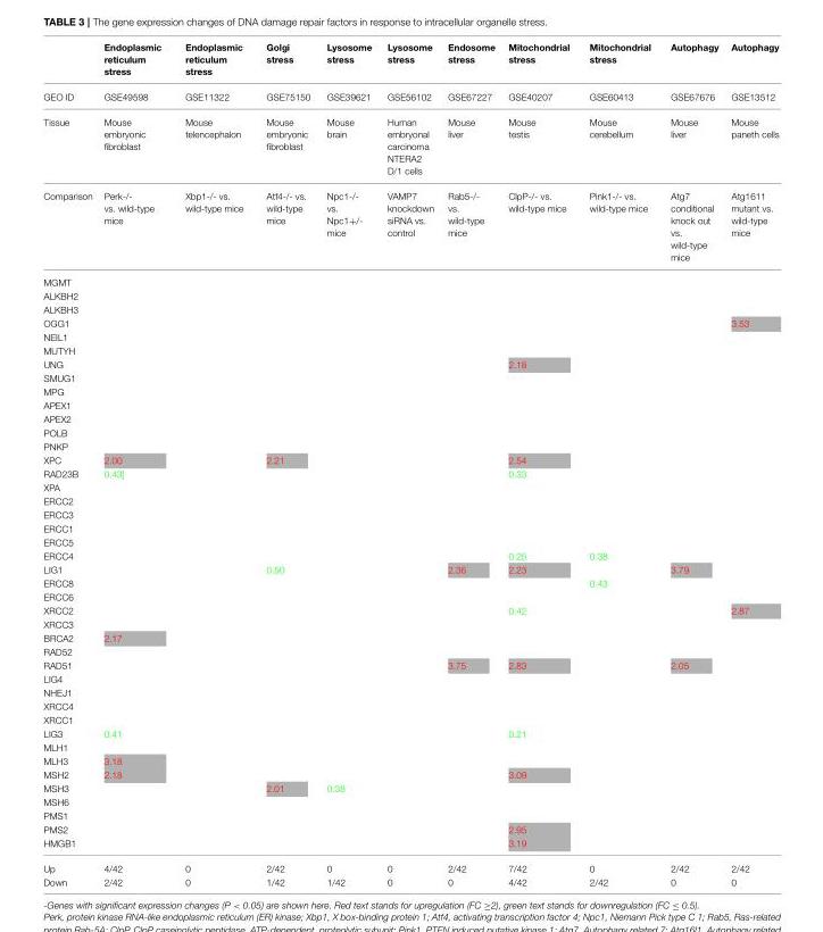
<table><thead><tr><td></td><td>Endoplasmic reticulum stress</td><td>Endoplasmic reticulum stress</td><td>Golgi stress</td><td>Lysosome stress</td><td>Lysosome stress</td><td>Endosome stress</td><td>Mitochondrial stress</td><td>Mitochondrial stress</td><td>Autophagy</td><td>Autophagy</td></tr></thead><tbody><tr><td>GEO ID</td><td>GSE49598</td><td>GSE11322</td><td>GSE75150</td><td>GSE39621</td><td>GSE56102</td><td>GSE67227</td><td>GSE40207</td><td>GSE60413</td><td>GSE67676</td><td>GSE13512</td></tr><tr><td>Tissue</td><td>Mouse embryonic fibroblast</td><td>Mouse telencephalon</td><td>Mouse embryonic fibroblast</td><td>Mouse brain</td><td>Human embryonal carcinoma NTERA2 D/1 cells</td><td>Mouse liver</td><td>Mouse testis</td><td>Mouse cerebellum</td><td>Mouse liver</td><td>Mouse paneth cells</td></tr><tr><td>Comparison</td><td>Perk-/- vs. wild-type mice</td><td>Xbp1-/- vs. wild-type mice</td><td>Atf4-/- vs. wild-type mice</td><td>Npc1-/- vs. Npc1+/- mice</td><td>VAMP7 knockdown siRNA vs. control</td><td>Rab5-/- vs. wild-type mice</td><td>ClpP-/- vs. wild-type mice</td><td>Pink1-/- vs. wild-type mice</td><td>Atg7 conditional knock out vs. wild-type mice</td><td>Atg1611 mutant vs. wild-type mice</td></tr><tr><td colspan="11">MGMT</td></tr><tr><td colspan="11">ALKBH2</td></tr><tr><td colspan="11">ALKBH3</td></tr><tr><td>OGG1</td><td></td><td></td><td></td><td></td><td></td><td></td><td></td><td></td><td></td><td>3.53</td></tr><tr><td colspan="11">NEIL1</td></tr><tr><td colspan="11">MUTYH</td></tr><tr><td>UNG</td><td></td><td></td><td></td><td></td><td></td><td></td><td>2.18</td><td></td><td></td><td></td></tr><tr><td colspan="11">SMUG1</td></tr><tr><td colspan="11">MPG</td></tr><tr><td colspan="11">APEX1</td></tr><tr><td colspan="11">APEX2</td></tr><tr><td colspan="11">POLB</td></tr><tr><td colspan="11">PNKP</td></tr><tr><td>XPC</td><td>2.00</td><td></td><td>2.21</td><td></td><td></td><td></td><td>2.54</td><td></td><td></td><td></td></tr><tr><td>RAD23B</td><td>0.43]</td><td></td><td></td><td></td><td></td><td></td><td>0.33</td><td></td><td></td><td></td></tr><tr><td colspan="11">XPA</td></tr><tr><td colspan="11">ERCC2</td></tr><tr><td colspan="11">ERCC3</td></tr><tr><td colspan="11">ERCC1</td></tr><tr><td colspan="11">ERCC5</td></tr><tr><td>ERCC4</td><td></td><td></td><td></td><td></td><td></td><td></td><td>0.25</td><td>0.38</td><td></td><td></td></tr><tr><td>LIG1</td><td></td><td></td><td>0.50</td><td></td><td></td><td>2.36</td><td>2.23</td><td></td><td>3.79</td><td></td></tr><tr><td>ERCC8</td><td></td><td></td><td></td><td></td><td></td><td></td><td></td><td>0.43</td><td></td><td></td></tr><tr><td colspan="11">ERCC6</td></tr><tr><td>XRCC2</td><td></td><td></td><td></td><td></td><td></td><td></td><td>0.42</td><td></td><td></td><td>2.87</td></tr><tr><td colspan="11">XRCC3</td></tr><tr><td>BRCA2</td><td>2.17</td><td></td><td></td><td></td><td></td><td></td><td></td><td></td><td></td><td></td></tr><tr><td colspan="11">RAD52</td></tr><tr><td>RAD51</td><td></td><td></td><td></td><td></td><td></td><td>3.75</td><td>2.83</td><td></td><td>2.05</td><td></td></tr><tr><td colspan="11">LIG4</td></tr><tr><td colspan="11">NHEJ1</td></tr><tr><td colspan="11">XRCC4</td></tr><tr><td colspan="11">XRCC1</td></tr><tr><td>LIG3</td><td>0.41</td><td></td><td></td><td></td><td></td><td></td><td>0.21</td><td></td><td></td><td></td></tr><tr><td colspan="11">MLH1</td></tr><tr><td>MLH3</td><td>3.18</td><td></td><td></td><td></td><td></td><td></td><td></td><td></td><td></td><td></td></tr><tr><td>MSH2</td><td>2.18</td><td></td><td></td><td></td><td></td><td></td><td>3.09</td><td></td><td></td><td></td></tr><tr><td>MSH3</td><td></td><td></td><td>2.01</td><td>0.38</td><td></td><td></td><td></td><td></td><td></td><td></td></tr><tr><td colspan="11">MSH6</td></tr><tr><td colspan="11">PMS1</td></tr><tr><td>PMS2</td><td></td><td></td><td></td><td></td><td></td><td></td><td>2.95</td><td></td><td></td><td></td></tr><tr><td>HMGB1</td><td></td><td></td><td></td><td></td><td></td><td></td><td>3.19</td><td></td><td></td><td></td></tr><tr><td>Up</td><td>4/42</td><td>0</td><td>2/42</td><td>0</td><td>0</td><td>2/42</td><td>7/42</td><td>0</td><td>2/42</td><td>2/42</td></tr><tr><td>Down</td><td>2/42</td><td>0</td><td>1/42</td><td>1/42</td><td>0</td><td>0</td><td>4/42</td><td>2/42</td><td>0</td><td>0</td></tr></tbody></table>